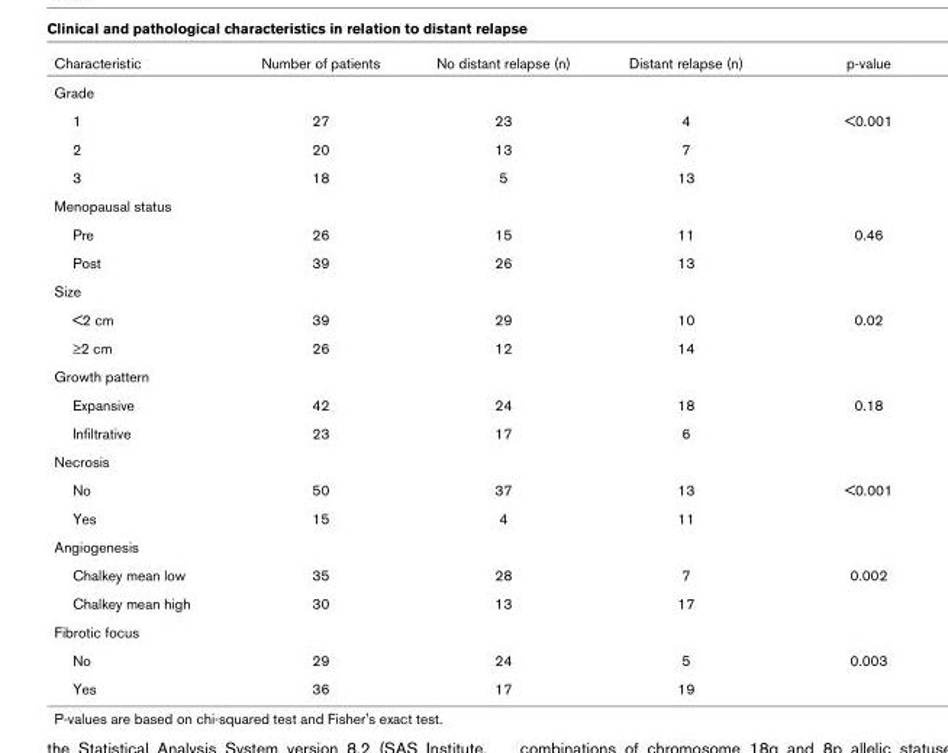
<table><thead><tr><td>Characteristic</td><td>Number of patients</td><td>No distant relapse (n)</td><td>Distant relapse (n)</td><td>p-value</td></tr></thead><tbody><tr><td colspan="5">Grade</td></tr><tr><td>1</td><td>27</td><td>23</td><td>4</td><td>&lt;0.001</td></tr><tr><td>2</td><td>20</td><td>13</td><td>7</td><td></td></tr><tr><td>3</td><td>18</td><td>5</td><td>13</td><td></td></tr><tr><td colspan="5">Menopausal status</td></tr><tr><td>Pre</td><td>26</td><td>15</td><td>11</td><td>0.46</td></tr><tr><td>Post</td><td>39</td><td>26</td><td>13</td><td></td></tr><tr><td colspan="5">Size</td></tr><tr><td>&lt;2 cm</td><td>39</td><td>29</td><td>10</td><td>0.02</td></tr><tr><td>≥2 cm</td><td>26</td><td>12</td><td>14</td><td></td></tr><tr><td colspan="5">Growth pattern</td></tr><tr><td>Expansive</td><td>42</td><td>24</td><td>18</td><td>0.18</td></tr><tr><td>Infiltrative</td><td>23</td><td>17</td><td>6</td><td></td></tr><tr><td colspan="5">Necrosis</td></tr><tr><td>No</td><td>50</td><td>37</td><td>13</td><td>&lt;0.001</td></tr><tr><td>Yes</td><td>15</td><td>4</td><td>11</td><td></td></tr><tr><td colspan="5">Angiogenesis</td></tr><tr><td>Chalkey mean low</td><td>35</td><td>28</td><td>7</td><td>0.002</td></tr><tr><td>Chalkey mean high</td><td>30</td><td>13</td><td>17</td><td></td></tr><tr><td colspan="5">Fibrotic focus</td></tr><tr><td>No</td><td>29</td><td>24</td><td>5</td><td>0.003</td></tr><tr><td>Yes</td><td>36</td><td>17</td><td>19</td><td></td></tr></tbody></table>